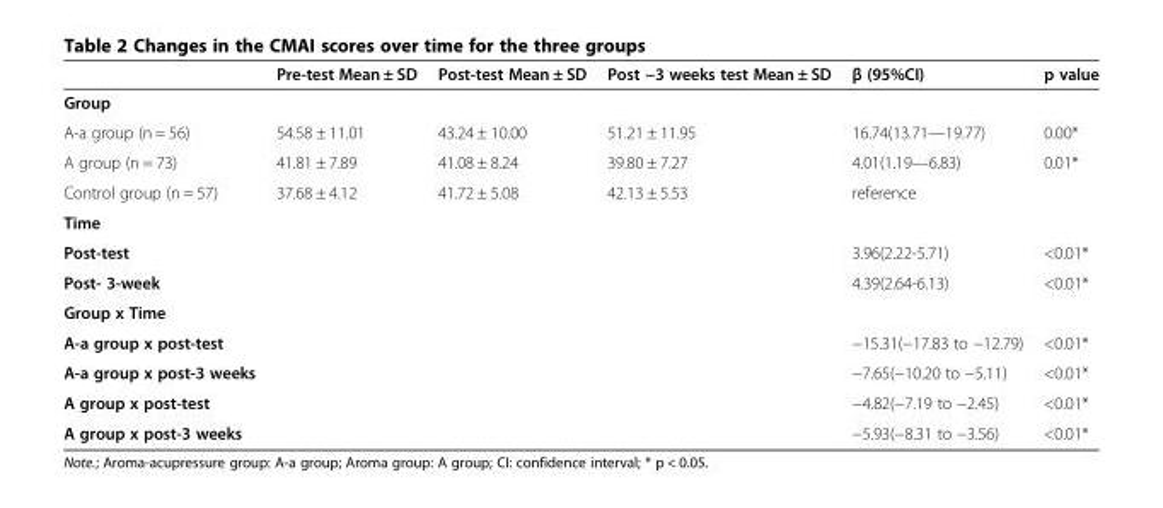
<table><thead><tr><td></td><td>Pre-test Mean ± SD</td><td>Post-test Mean ± SD</td><td>Post −3 weeks test Mean ± SD</td><td>β (95%CI)</td><td>p value</td></tr></thead><tbody><tr><td colspan="6">Group</td></tr><tr><td>A-a group (n = 56)</td><td>54.58 ± 11.01</td><td>43.24 ± 10.00</td><td>51.21 ± 11.95</td><td>16.74(13.71—19.77)</td><td>0.00*</td></tr><tr><td>A group (n = 73)</td><td>41.81 ± 7.89</td><td>41.08 ± 8.24</td><td>39.80 ± 7.27</td><td>4.01(1.19—6.83)</td><td>0.01*</td></tr><tr><td>Control group (n = 57)</td><td>37.68 ± 4.12</td><td>41.72 ± 5.08</td><td>42.13 ± 5.53</td><td>reference</td><td></td></tr><tr><td colspan="6">Time</td></tr><tr><td>Post-test</td><td></td><td></td><td></td><td>3.96(2.22-5.71)</td><td>&lt;0.01*</td></tr><tr><td>Post- 3-week</td><td></td><td></td><td></td><td>4.39(2.64-6.13)</td><td>&lt;0.01*</td></tr><tr><td colspan="6">Group x Time</td></tr><tr><td>A-a group x post-test</td><td></td><td></td><td></td><td>−15.31(−17.83 to −12.79)</td><td>&lt;0.01*</td></tr><tr><td>A-a group x post-3 weeks</td><td></td><td></td><td></td><td>−7.65(−10.20 to −5.11)</td><td>&lt;0.01*</td></tr><tr><td>A group x post-test</td><td></td><td></td><td></td><td>−4.82(−7.19 to −2.45)</td><td>&lt;0.01*</td></tr><tr><td>A group x post-3 weeks</td><td></td><td></td><td></td><td>−5.93(−8.31 to −3.56)</td><td>&lt;0.01*</td></tr></tbody></table>